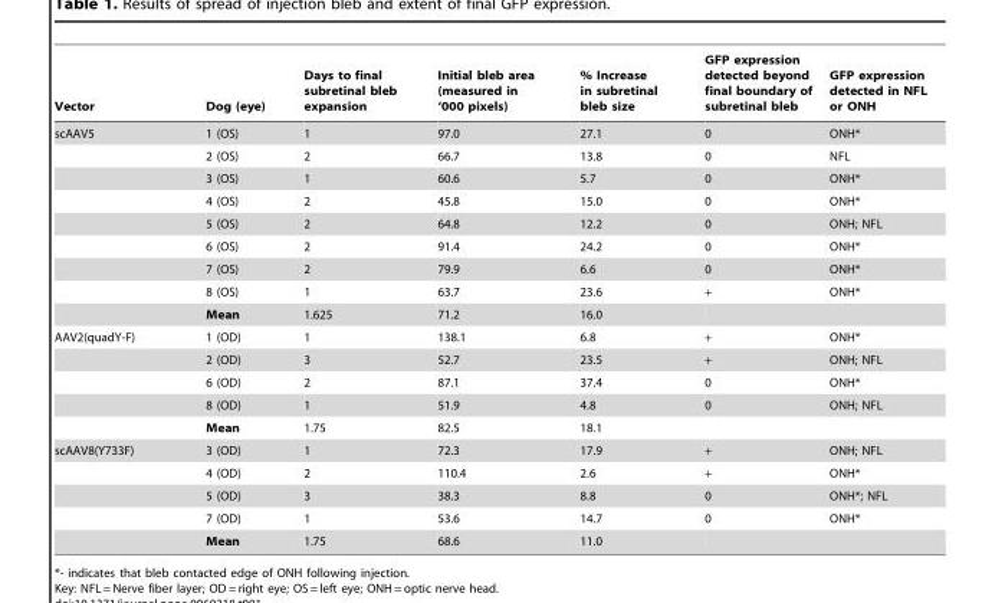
<table><thead><tr><td>Vector</td><td>Dog (eye)</td><td>Days to final subretinal bleb expansion</td><td>Initial bleb area (measured in ‘000 pixels)</td><td>% Increase in subretinal bleb size</td><td>GFP expression detected beyond final boundary of subretinal bleb</td><td>GFP expression detected in NFL or ONH</td></tr></thead><tbody><tr><td rowspan="9">scAAV5</td><td>1 (OS)</td><td>1</td><td>97.0</td><td>27.1</td><td>0</td><td>ONH*</td></tr><tr><td>2 (OS)</td><td>2</td><td>66.7</td><td>13.8</td><td>0</td><td>NFL</td></tr><tr><td>3 (OS)</td><td>1</td><td>60.6</td><td>5.7</td><td>0</td><td>ONH*</td></tr><tr><td>4 (OS)</td><td>2</td><td>45.8</td><td>15.0</td><td>0</td><td>ONH*</td></tr><tr><td>5 (OS)</td><td>2</td><td>64.8</td><td>12.2</td><td>0</td><td>ONH; NFL</td></tr><tr><td>6 (OS)</td><td>2</td><td>91.4</td><td>24.2</td><td>0</td><td>ONH*</td></tr><tr><td>7 (OS)</td><td>2</td><td>79.9</td><td>6.6</td><td>0</td><td>ONH*</td></tr><tr><td>8 (OS)</td><td>1</td><td>63.7</td><td>23.6</td><td>+</td><td>ONH*</td></tr><tr><td>Mean</td><td>1.625</td><td>71.2</td><td>16.0</td><td></td><td></td></tr><tr><td rowspan="5">AAV2(quadY-F)</td><td>1 (OD)</td><td>1</td><td>138.1</td><td>6.8</td><td>+</td><td>ONH*</td></tr><tr><td>2 (OD)</td><td>3</td><td>52.7</td><td>23.5</td><td>+</td><td>ONH; NFL</td></tr><tr><td>6 (OD)</td><td>2</td><td>87.1</td><td>37.4</td><td>0</td><td>ONH*</td></tr><tr><td>8 (OD)</td><td>1</td><td>51.9</td><td>4.8</td><td>0</td><td>ONH; NFL</td></tr><tr><td>Mean</td><td>1.75</td><td>82.5</td><td>18.1</td><td></td><td></td></tr><tr><td rowspan="5">scAAV8(Y733F)</td><td>3 (OD)</td><td>1</td><td>72.3</td><td>17.9</td><td>+</td><td>ONH; NFL</td></tr><tr><td>4 (OD)</td><td>2</td><td>110.4</td><td>2.6</td><td>+</td><td>ONH*</td></tr><tr><td>5 (OD)</td><td>3</td><td>38.3</td><td>8.8</td><td>0</td><td>ONH*; NFL</td></tr><tr><td>7 (OD)</td><td>1</td><td>53.6</td><td>14.7</td><td>0</td><td>ONH*</td></tr><tr><td>Mean</td><td>1.75</td><td>68.6</td><td>11.0</td><td></td><td></td></tr></tbody></table>